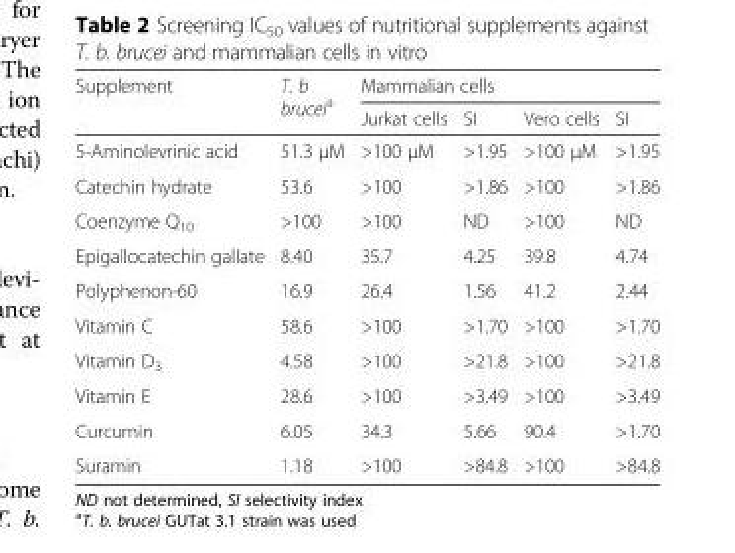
<table><thead><tr><td rowspan="2">Supplement</td><td rowspan="2">T. b brucei<sup>a</sup></td><td colspan="4">Mammalian cells</td></tr><tr><td>Jurkat cells</td><td>SI</td><td>Vero cells</td><td>SI</td></tr></thead><tbody><tr><td>5-Aminolevrinic acid</td><td>51.3 μM</td><td>&gt;100 μM</td><td>&gt;1.95</td><td>&gt;100 μM</td><td>&gt;1.95</td></tr><tr><td>Catechin hydrate</td><td>53.6</td><td>&gt;100</td><td>&gt;1.86</td><td>&gt;100</td><td>&gt;1.86</td></tr><tr><td>Coenzyme Q<sub>10</sub></td><td>&gt;100</td><td>&gt;100</td><td>ND</td><td>&gt;100</td><td>ND</td></tr><tr><td>Epigallocatechin gallate</td><td>8.40</td><td>35.7</td><td>4.25</td><td>39.8</td><td>4.74</td></tr><tr><td>Polyphenon-60</td><td>16.9</td><td>26.4</td><td>1.56</td><td>41.2</td><td>2.44</td></tr><tr><td>Vitamin C</td><td>58.6</td><td>&gt;100</td><td>&gt;1.70</td><td>&gt;100</td><td>&gt;1.70</td></tr><tr><td>Vitamin D<sub>3</sub></td><td>4.58</td><td>&gt;100</td><td>&gt;21.8</td><td>&gt;100</td><td>&gt;21.8</td></tr><tr><td>Vitamin E</td><td>28.6</td><td>&gt;100</td><td>&gt;3.49</td><td>&gt;100</td><td>&gt;3.49</td></tr><tr><td>Curcumin</td><td>6.05</td><td>34.3</td><td>5.66</td><td>90.4</td><td>&gt;1.70</td></tr><tr><td>Suramin</td><td>1.18</td><td>&gt;100</td><td>&gt;84.8</td><td>&gt;100</td><td>&gt;84.8</td></tr></tbody></table>